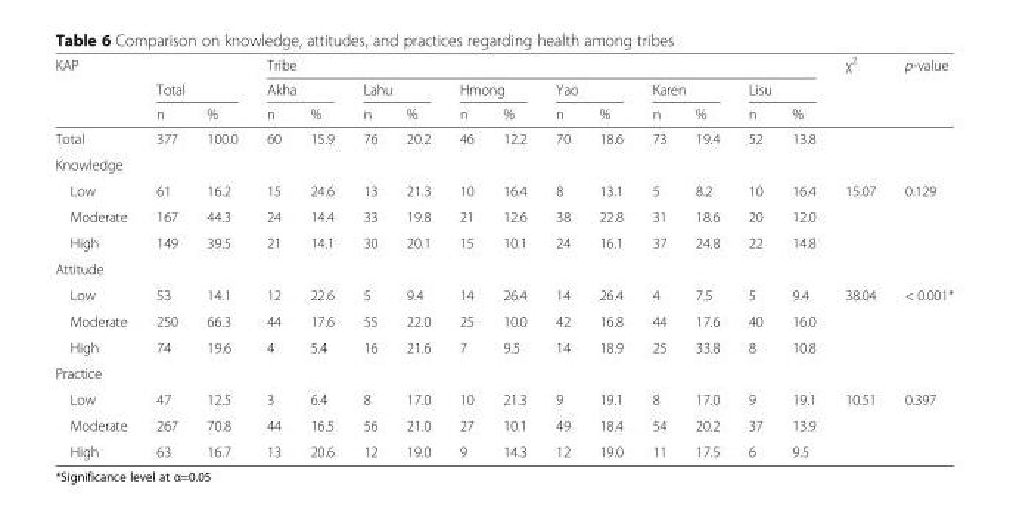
<table><thead><tr><td rowspan="3">KAP</td><td></td><td></td><td colspan="12">Tribe</td><td rowspan="3">χ<sup>2</sup></td><td rowspan="3">p-value</td></tr><tr><td colspan="2">Total</td><td colspan="2">Akha</td><td colspan="2">Lahu</td><td colspan="2">Hmong</td><td colspan="2">Yao</td><td colspan="2">Karen</td><td colspan="2">Lisu</td></tr><tr><td>n</td><td>%</td><td>n</td><td>%</td><td>n</td><td>%</td><td>n</td><td>%</td><td>n</td><td>%</td><td>n</td><td>%</td><td>n</td><td>%</td></tr></thead><tbody><tr><td>Total</td><td>377</td><td>100.0</td><td>60</td><td>15.9</td><td>76</td><td>20.2</td><td>46</td><td>12.2</td><td>70</td><td>18.6</td><td>73</td><td>19.4</td><td>52</td><td>13.8</td><td></td><td></td></tr><tr><td colspan="17">Knowledge</td></tr><tr><td>Low</td><td>61</td><td>16.2</td><td>15</td><td>24.6</td><td>13</td><td>21.3</td><td>10</td><td>16.4</td><td>8</td><td>13.1</td><td>5</td><td>8.2</td><td>10</td><td>16.4</td><td>15.07</td><td>0.129</td></tr><tr><td>Moderate</td><td>167</td><td>44.3</td><td>24</td><td>14.4</td><td>33</td><td>19.8</td><td>21</td><td>12.6</td><td>38</td><td>22.8</td><td>31</td><td>18.6</td><td>20</td><td>12.0</td><td></td><td></td></tr><tr><td>High</td><td>149</td><td>39.5</td><td>21</td><td>14.1</td><td>30</td><td>20.1</td><td>15</td><td>10.1</td><td>24</td><td>16.1</td><td>37</td><td>24.8</td><td>22</td><td>14.8</td><td></td><td></td></tr><tr><td colspan="17">Attitude</td></tr><tr><td>Low</td><td>53</td><td>14.1</td><td>12</td><td>22.6</td><td>5</td><td>9.4</td><td>14</td><td>26.4</td><td>14</td><td>26.4</td><td>4</td><td>7.5</td><td>5</td><td>9.4</td><td>38.04</td><td>&lt; 0.001*</td></tr><tr><td>Moderate</td><td>250</td><td>66.3</td><td>44</td><td>17.6</td><td>55</td><td>22.0</td><td>25</td><td>10.0</td><td>42</td><td>16.8</td><td>44</td><td>17.6</td><td>40</td><td>16.0</td><td></td><td></td></tr><tr><td>High</td><td>74</td><td>19.6</td><td>4</td><td>5.4</td><td>16</td><td>21.6</td><td>7</td><td>9.5</td><td>14</td><td>18.9</td><td>25</td><td>33.8</td><td>8</td><td>10.8</td><td></td><td></td></tr><tr><td colspan="17">Practice</td></tr><tr><td>Low</td><td>47</td><td>12.5</td><td>3</td><td>6.4</td><td>8</td><td>17.0</td><td>10</td><td>21.3</td><td>9</td><td>19.1</td><td>8</td><td>17.0</td><td>9</td><td>19.1</td><td>10.51</td><td>0.397</td></tr><tr><td>Moderate</td><td>267</td><td>70.8</td><td>44</td><td>16.5</td><td>56</td><td>21.0</td><td>27</td><td>10.1</td><td>49</td><td>18.4</td><td>54</td><td>20.2</td><td>37</td><td>13.9</td><td></td><td></td></tr><tr><td>High</td><td>63</td><td>16.7</td><td>13</td><td>20.6</td><td>12</td><td>19.0</td><td>9</td><td>14.3</td><td>12</td><td>19.0</td><td>11</td><td>17.5</td><td>6</td><td>9.5</td><td></td><td></td></tr></tbody></table>